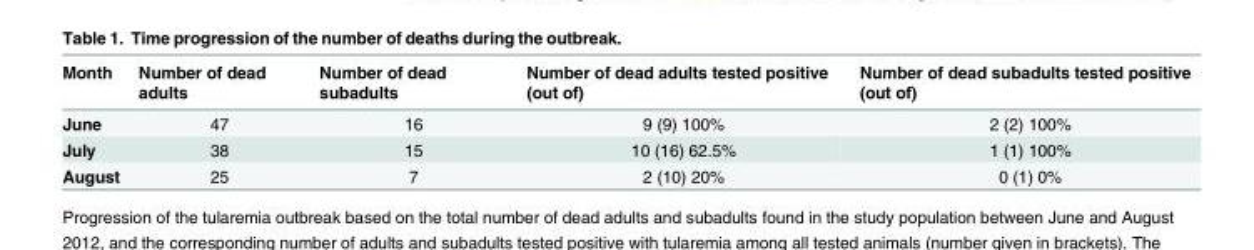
<table><thead><tr><td>Month</td><td>Number of dead adults</td><td>Number of dead subadults</td><td>Number of dead adults tested positive (out of)</td><td>Number of dead subadults tested positive (out of)</td></tr></thead><tbody><tr><td>June</td><td>47</td><td>16</td><td>9 (9) 100%</td><td>2 (2) 100%</td></tr><tr><td>July</td><td>38</td><td>15</td><td>10 (16) 62.5%</td><td>1 (1) 100%</td></tr><tr><td>August</td><td>25</td><td>7</td><td>2 (10) 20%</td><td>0 (1) 0%</td></tr></tbody></table>